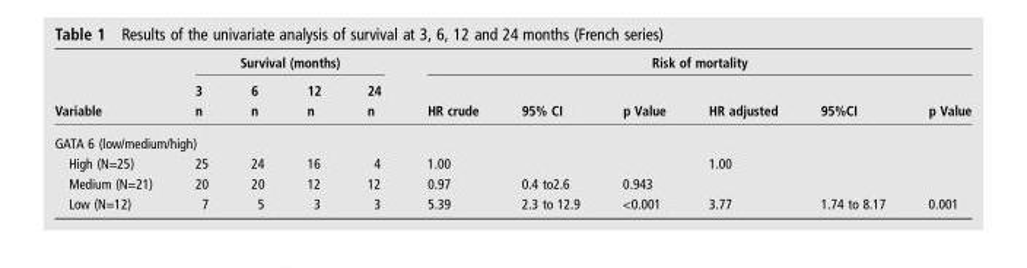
<table><thead><tr><td rowspan="3">Variable</td><td colspan="4">Survival (months)</td><td colspan="6">Risk of mortality</td></tr><tr><td rowspan="2">3 n</td><td rowspan="2">6 n</td><td rowspan="2">12 n</td><td rowspan="2">24 n</td><td rowspan="2">HR crude</td><td rowspan="2">95% CI</td><td rowspan="2">p Value</td><td rowspan="2">HR adjusted</td><td rowspan="2">95%CI</td><td rowspan="2">p Value</td></tr><tr></tr></thead><tbody><tr><td colspan="11">GATA 6 (low/medium/high)</td></tr><tr><td>High (N=25)</td><td>25</td><td>24</td><td>16</td><td>4</td><td>1.00</td><td></td><td></td><td>1.00</td><td></td><td></td></tr><tr><td>Medium (N=21)</td><td>20</td><td>20</td><td>12</td><td>12</td><td>0.97</td><td>0.4 to2.6</td><td>0.943</td><td></td><td></td><td></td></tr><tr><td>Low (N=12)</td><td>7</td><td>5</td><td>3</td><td>3</td><td>5.39</td><td>2.3 to 12.9</td><td>&lt;0.001</td><td>3.77</td><td>1.74 to 8.17</td><td>0.001</td></tr></tbody></table>